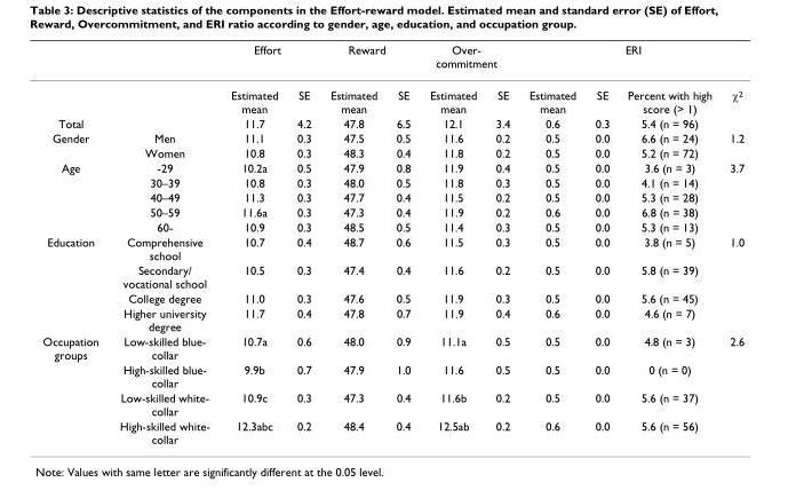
<table><thead><tr><td rowspan="2"></td><td rowspan="2"></td><td colspan="2">Effort</td><td colspan="2">Reward</td><td colspan="2">Over- commitment</td><td colspan="4">ERI</td></tr><tr><td>Estimated mean</td><td>SE</td><td>Estimated mean</td><td>SE</td><td>Estimated mean</td><td>SE</td><td>Estimated mean</td><td>SE</td><td>Percent with high score (&gt; 1)</td><td>χ<sup>2</sup></td></tr></thead><tbody><tr><td>Total</td><td></td><td>11.7</td><td>4.2</td><td>47.8</td><td>6.5</td><td>12.1</td><td>3.4</td><td>0.6</td><td>0.3</td><td>5.4 (n = 96)</td><td></td></tr><tr><td rowspan="2">Gender</td><td>Men</td><td>11.1</td><td>0.3</td><td>47.5</td><td>0.5</td><td>11.6</td><td>0.2</td><td>0.5</td><td>0.0</td><td>6.6 (n = 24)</td><td>1.2</td></tr><tr><td>Women</td><td>10.8</td><td>0.3</td><td>48.3</td><td>0.4</td><td>11.8</td><td>0.2</td><td>0.5</td><td>0.0</td><td>5.2 (n = 72)</td><td></td></tr><tr><td rowspan="5">Age</td><td>-29</td><td>10.2a</td><td>0.5</td><td>47.9</td><td>0.8</td><td>11.9</td><td>0.4</td><td>0.5</td><td>0.0</td><td>3.6 (n = 3)</td><td>3.7</td></tr><tr><td>30–39</td><td>10.8</td><td>0.3</td><td>48.0</td><td>0.5</td><td>11.8</td><td>0.3</td><td>0.5</td><td>0.0</td><td>4.1 (n = 14)</td><td></td></tr><tr><td>40–49</td><td>11.3</td><td>0.3</td><td>47.7</td><td>0.4</td><td>11.5</td><td>0.2</td><td>0.5</td><td>0.0</td><td>5.3 (n = 28)</td><td></td></tr><tr><td>50–59</td><td>11.6a</td><td>0.3</td><td>47.3</td><td>0.4</td><td>11.9</td><td>0.2</td><td>0.6</td><td>0.0</td><td>6.8 (n = 38)</td><td></td></tr><tr><td>60-</td><td>10.9</td><td>0.3</td><td>48.5</td><td>0.5</td><td>11.4</td><td>0.3</td><td>0.5</td><td>0.0</td><td>5.3 (n = 13)</td><td></td></tr><tr><td rowspan="4">Education</td><td>Comprehensive school</td><td>10.7</td><td>0.4</td><td>48.7</td><td>0.6</td><td>11.5</td><td>0.3</td><td>0.5</td><td>0.0</td><td>3.8 (n = 5)</td><td>1.0</td></tr><tr><td>Secondary/ vocational school</td><td>10.5</td><td>0.3</td><td>47.4</td><td>0.4</td><td>11.6</td><td>0.2</td><td>0.5</td><td>0.0</td><td>5.8 (n = 39)</td><td></td></tr><tr><td>College degree</td><td>11.0</td><td>0.3</td><td>47.6</td><td>0.5</td><td>11.9</td><td>0.3</td><td>0.5</td><td>0.0</td><td>5.6 (n = 45)</td><td></td></tr><tr><td>Higher university degree</td><td>11.7</td><td>0.4</td><td>47.8</td><td>0.7</td><td>11.9</td><td>0.4</td><td>0.6</td><td>0.0</td><td>4.6 (n = 7)</td><td></td></tr><tr><td rowspan="4">Occupation groups</td><td>Low-skilled blue- collar</td><td>10.7a</td><td>0.6</td><td>48.0</td><td>0.9</td><td>11.1a</td><td>0.5</td><td>0.5</td><td>0.0</td><td>4.8 (n = 3)</td><td>2.6</td></tr><tr><td>High-skilled blue- collar</td><td>9.9b</td><td>0.7</td><td>47.9</td><td>1.0</td><td>11.6</td><td>0.5</td><td>0.5</td><td>0.0</td><td>0 (n = 0)</td><td></td></tr><tr><td>Low-skilled white- collar</td><td>10.9c</td><td>0.3</td><td>47.3</td><td>0.4</td><td>11.6b</td><td>0.2</td><td>0.5</td><td>0.0</td><td>5.6 (n = 37)</td><td></td></tr><tr><td>High-skilled white- collar</td><td>12.3abc</td><td>0.2</td><td>48.4</td><td>0.4</td><td>12.5ab</td><td>0.2</td><td>0.6</td><td>0.0</td><td>5.6 (n = 56)</td><td></td></tr></tbody></table>